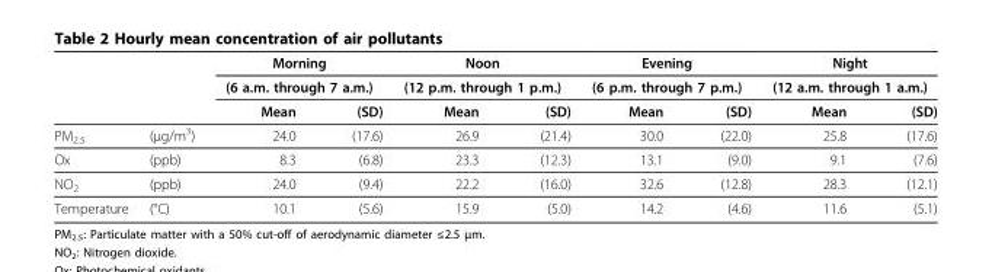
<table><thead><tr><td rowspan="3"></td><td rowspan="3"></td><td rowspan="2" colspan="2">Morning (6 a.m. through 7 a.m.)</td><td rowspan="2" colspan="2">Noon (12 p.m. through 1 p.m.)</td><td rowspan="2" colspan="2">Evening (6 p.m. through 7 p.m.)</td><td rowspan="2" colspan="2">Night (12 a.m. through 1 a.m.)</td></tr><tr></tr><tr><td>Mean</td><td>(SD)</td><td>Mean</td><td>(SD)</td><td>Mean</td><td>(SD)</td><td>Mean</td><td>(SD)</td></tr></thead><tbody><tr><td>PM<sub>2.5</sub></td><td>(μg/m<sup>3</sup>)</td><td>24.0</td><td>(17.6)</td><td>26.9</td><td>(21.4)</td><td>30.0</td><td>(22.0)</td><td>25.8</td><td>(17.6)</td></tr><tr><td>Ox</td><td>(ppb)</td><td>8.3</td><td>(6.8)</td><td>23.3</td><td>(12.3)</td><td>13.1</td><td>(9.0)</td><td>9.1</td><td>(7.6)</td></tr><tr><td>NO<sub>2</sub></td><td>(ppb)</td><td>24.0</td><td>(9.4)</td><td>22.2</td><td>(16.0)</td><td>32.6</td><td>(12.8)</td><td>28.3</td><td>(12.1)</td></tr><tr><td>Temperature</td><td>(°C)</td><td>10.1</td><td>(5.6)</td><td>15.9</td><td>(5.0)</td><td>14.2</td><td>(4.6)</td><td>11.6</td><td>(5.1)</td></tr></tbody></table>